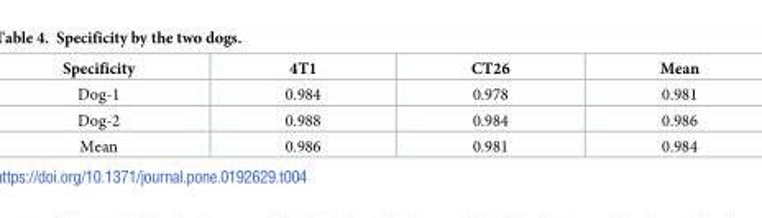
<table><thead><tr><td>Specificity</td><td>4T1</td><td>CT26</td><td>Mean</td></tr></thead><tbody><tr><td>Dog-1</td><td>0.984</td><td>0.978</td><td>0.981</td></tr><tr><td>Dog-2</td><td>0.988</td><td>0.984</td><td>0.986</td></tr><tr><td>Mean</td><td>0.986</td><td>0.981</td><td>0.984</td></tr></tbody></table>